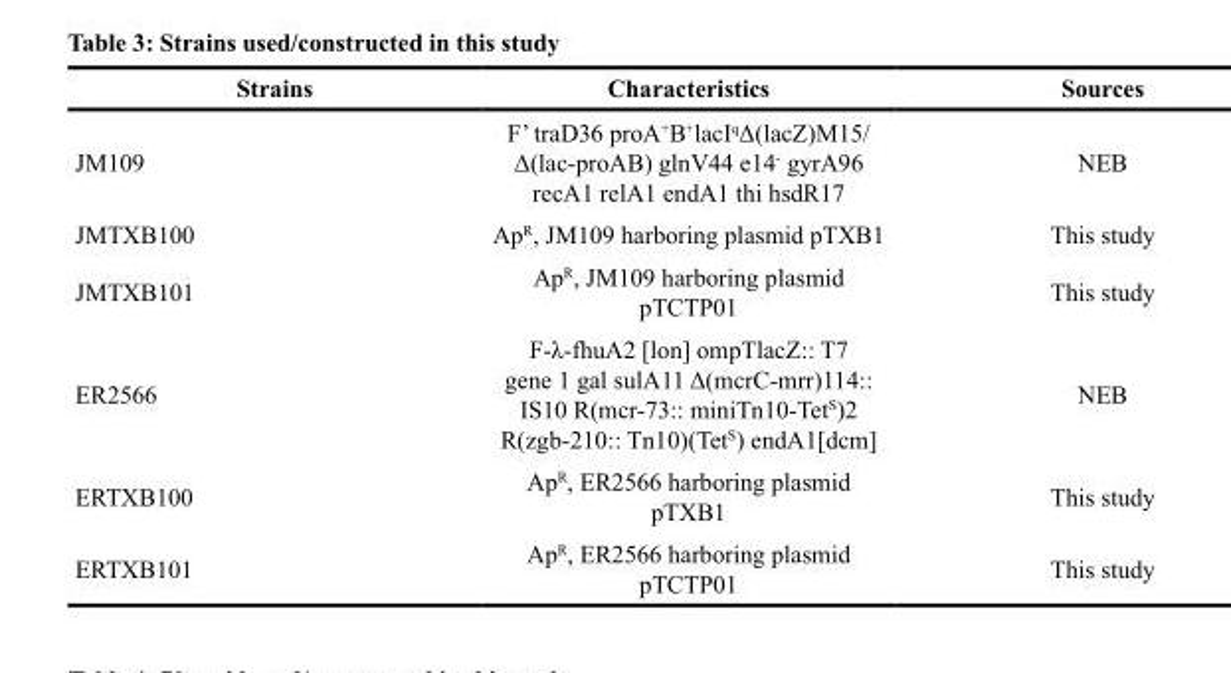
<table><thead><tr><td>Strains</td><td>Characteristics</td><td>Sources</td></tr></thead><tbody><tr><td>JM109</td><td>F’ traD36 proA<sup>+</sup>B<sup>+</sup>lacI<sup>q</sup>Δ(lacZ)M15/ Δ(lac-proAB) glnV44 e14<sup>-</sup> gyrA96 recA1 relA1 endA1 thi hsdR17</td><td>NEB</td></tr><tr><td>JMTXB100</td><td>Ap<sup>R</sup>, JM109 harboring plasmid pTXB1</td><td>This study</td></tr><tr><td>JMTXB101</td><td>Ap<sup>R</sup>, JM109 harboring plasmid pTCTP01</td><td>This study</td></tr><tr><td>ER2566</td><td>F-λ-fhuA2 [lon] ompTlacZ:: T7 gene 1 gal sulA11 Δ(mcrC-mrr)114:: IS10 R(mcr-73:: miniTn10-Tet<sup>S</sup>)2 R(zgb-210:: Tn10)(Tet<sup>S</sup>) endA1[dcm]</td><td>NEB</td></tr><tr><td>ERTXB100</td><td>Ap<sup>R</sup>, ER2566 harboring plasmid pTXB1</td><td>This study</td></tr><tr><td>ERTXB101</td><td>Ap<sup>R</sup>, ER2566 harboring plasmid pTCTP01</td><td>This study</td></tr></tbody></table>